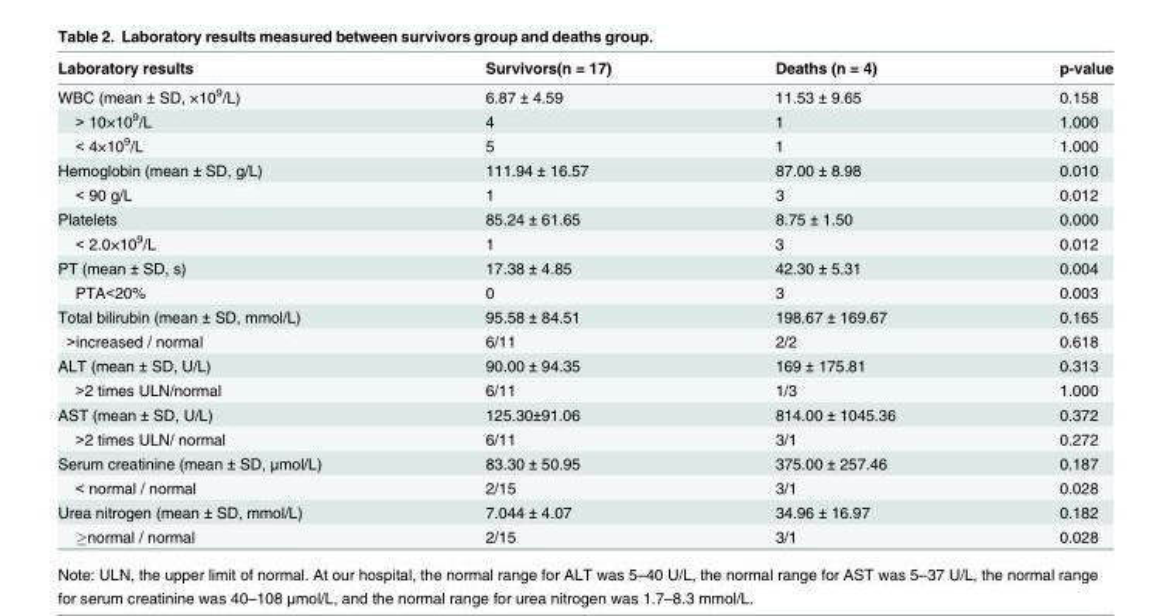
<table><thead><tr><td>Laboratory results</td><td>Survivors(n = 17)</td><td>Deaths (n = 4)</td><td>p-value</td></tr></thead><tbody><tr><td>WBC (mean ± SD, ×10<sup>9</sup>/L)</td><td>6.87 ± 4.59</td><td>11.53 ± 9.65</td><td>0.158</td></tr><tr><td>&gt; 10×10<sup>9</sup>/L</td><td>4</td><td>1</td><td>1.000</td></tr><tr><td>&lt; 4×10<sup>9</sup>/L</td><td>5</td><td>1</td><td>1.000</td></tr><tr><td>Hemoglobin (mean ± SD, g/L)</td><td>111.94 ± 16.57</td><td>87.00 ± 8.98</td><td>0.010</td></tr><tr><td>&lt; 90 g/L</td><td>1</td><td>3</td><td>0.012</td></tr><tr><td>Platelets</td><td>85.24 ± 61.65</td><td>8.75 ± 1.50</td><td>0.000</td></tr><tr><td>&lt; 2.0×10<sup>9</sup>/L</td><td>1</td><td>3</td><td>0.012</td></tr><tr><td>PT (mean ± SD, s)</td><td>17.38 ± 4.85</td><td>42.30 ± 5.31</td><td>0.004</td></tr><tr><td>PTA&lt;20%</td><td>0</td><td>3</td><td>0.003</td></tr><tr><td>Total bilirubin (mean ± SD, mmol/L)</td><td>95.58 ± 84.51</td><td>198.67 ± 169.67</td><td>0.165</td></tr><tr><td>&gt;increased / normal</td><td>6/11</td><td>2/2</td><td>0.618</td></tr><tr><td>ALT (mean ± SD, U/L)</td><td>90.00 ± 94.35</td><td>169 ± 175.81</td><td>0.313</td></tr><tr><td>&gt;2 times ULN/normal</td><td>6/11</td><td>1/3</td><td>1.000</td></tr><tr><td>AST (mean ± SD, U/L)</td><td>125.30±91.06</td><td>814.00 ± 1045.36</td><td>0.372</td></tr><tr><td>&gt;2 times ULN/ normal</td><td>6/11</td><td>3/1</td><td>0.272</td></tr><tr><td>Serum creatinine (mean ± SD, μmol/L)</td><td>83.30 ± 50.95</td><td>375.00 ± 257.46</td><td>0.187</td></tr><tr><td>&lt; normal / normal</td><td>2/15</td><td>3/1</td><td>0.028</td></tr><tr><td>Urea nitrogen (mean ± SD, mmol/L)</td><td>7.044 ± 4.07</td><td>34.96 ± 16.97</td><td>0.182</td></tr><tr><td>≥normal / normal</td><td>2/15</td><td>3/1</td><td>0.028</td></tr></tbody></table>